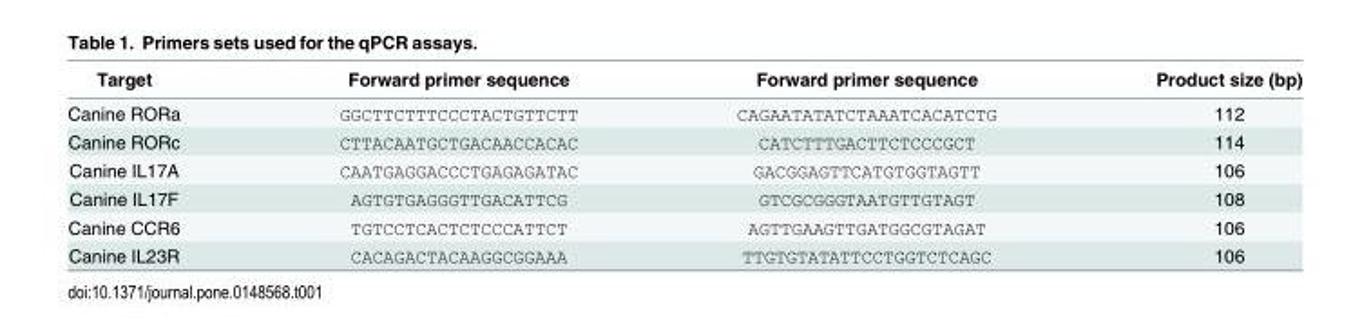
<table><thead><tr><td>Target</td><td>Forward primer sequence</td><td>Forward primer sequence</td><td>Product size (bp)</td></tr></thead><tbody><tr><td>Canine RORa</td><td>GGCTTCTTTCCCTACTGTTCTT</td><td>CAGAATATATCTAAATCACATCTG</td><td>112</td></tr><tr><td>Canine RORc</td><td>CTTACAATGCTGACAACCACAC</td><td>CATCTTTGACTTCTCCCGCT</td><td>114</td></tr><tr><td>Canine IL17A</td><td>CAATGAGGACCCTGAGAGATAC</td><td>GACGGAGTTCATGTGGTAGTT</td><td>106</td></tr><tr><td>Canine IL17F</td><td>AGTGTGAGGGTTGACATTCG</td><td>GTCGCGGGTAATGTTGTAGT</td><td>108</td></tr><tr><td>Canine CCR6</td><td>TGTCCTCACTCTCCCATTCT</td><td>AGTTGAAGTTGATGGCGTAGAT</td><td>106</td></tr><tr><td>Canine IL23R</td><td>CACAGACTACAAGGCGGAAA</td><td>TTGTGTATATTCCTGGTCTCAGC</td><td>106</td></tr></tbody></table>